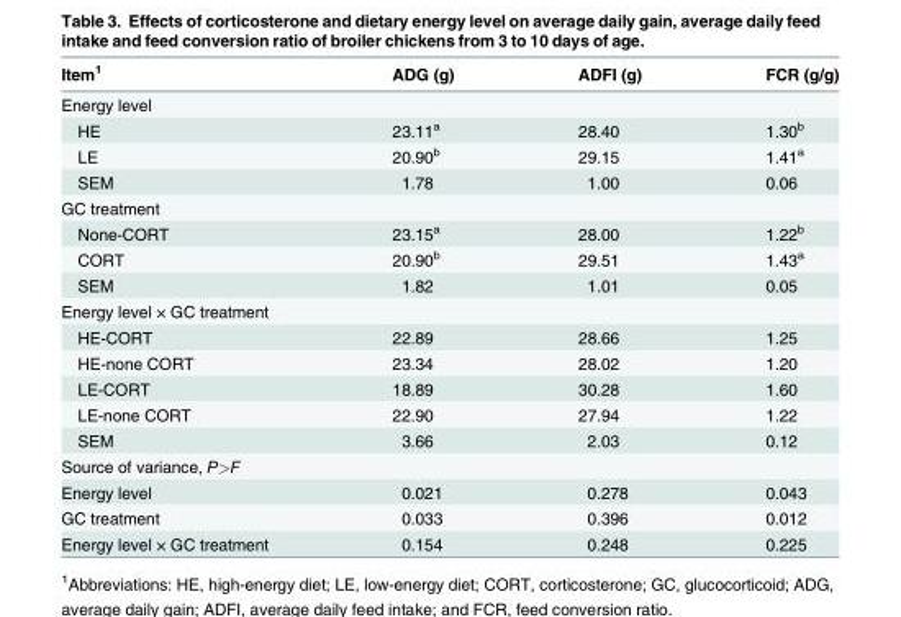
<table><thead><tr><td>Item<sup>1</sup></td><td>ADG (g)</td><td>ADFI (g)</td><td>FCR (g/g)</td></tr></thead><tbody><tr><td colspan="4">Energy level</td></tr><tr><td>HE</td><td>23.11<sup>a</sup></td><td>28.40</td><td>1.30<sup>b</sup></td></tr><tr><td>LE</td><td>20.90<sup>b</sup></td><td>29.15</td><td>1.41<sup>a</sup></td></tr><tr><td>SEM</td><td>1.78</td><td>1.00</td><td>0.06</td></tr><tr><td colspan="4">GC treatment</td></tr><tr><td>None-CORT</td><td>23.15<sup>a</sup></td><td>28.00</td><td>1.22<sup>b</sup></td></tr><tr><td>CORT</td><td>20.90<sup>b</sup></td><td>29.51</td><td>1.43<sup>a</sup></td></tr><tr><td>SEM</td><td>1.82</td><td>1.01</td><td>0.05</td></tr><tr><td colspan="4">Energy level × GC treatment</td></tr><tr><td>HE-CORT</td><td>22.89</td><td>28.66</td><td>1.25</td></tr><tr><td>HE-none CORT</td><td>23.34</td><td>28.02</td><td>1.20</td></tr><tr><td>LE-CORT</td><td>18.89</td><td>30.28</td><td>1.60</td></tr><tr><td>LE-none CORT</td><td>22.90</td><td>27.94</td><td>1.22</td></tr><tr><td>SEM</td><td>3.66</td><td>2.03</td><td>0.12</td></tr><tr><td colspan="4">Source of variance, P&gt;F</td></tr><tr><td>Energy level</td><td>0.021</td><td>0.278</td><td>0.043</td></tr><tr><td>GC treatment</td><td>0.033</td><td>0.396</td><td>0.012</td></tr><tr><td>Energy level × GC treatment</td><td>0.154</td><td>0.248</td><td>0.225</td></tr></tbody></table>